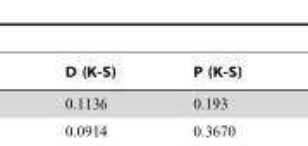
<table><thead><tr><td>D (K-S)</td><td>P (K-S)</td></tr></thead><tbody></tbody></table>